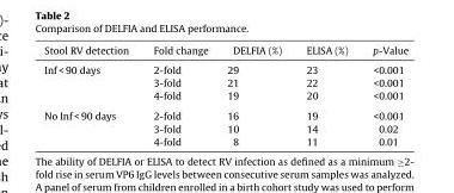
<table><thead><tr><td>Stool RV detection</td><td>Fold change</td><td>DELFIA (%)</td><td>ELISA (%)</td><td>p-Value</td></tr></thead><tbody><tr><td rowspan="3">Inf &lt; 90 days</td><td>2-fold</td><td>29</td><td>23</td><td>&lt;0.001</td></tr><tr><td>3-fold</td><td>21</td><td>22</td><td>&lt;0.001</td></tr><tr><td>4-fold</td><td>19</td><td>20</td><td>&lt;0.001</td></tr><tr><td rowspan="3">No Inf &lt; 90 days</td><td>2-fold</td><td>16</td><td>19</td><td>&lt;0.001</td></tr><tr><td>3-fold</td><td>10</td><td>14</td><td>0.02</td></tr><tr><td>4-fold</td><td>8</td><td>11</td><td>0.01</td></tr></tbody></table>